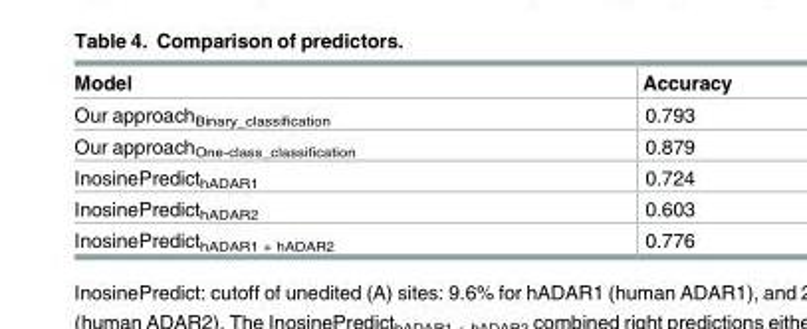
<table><thead><tr><td>Model</td><td>Accuracy</td></tr></thead><tbody><tr><td>Our approach<sub>Binary_classification</sub></td><td>0.793</td></tr><tr><td>Our approach<sub>One-class_classification</sub></td><td>0.879</td></tr><tr><td>InosinePredict<sub>hADAR1</sub></td><td>0.724</td></tr><tr><td>InosinePredict<sub>hADAR2</sub></td><td>0.603</td></tr><tr><td>InosinePredict<sub>hADAR1 + hADAR2</sub></td><td>0.776</td></tr></tbody></table>